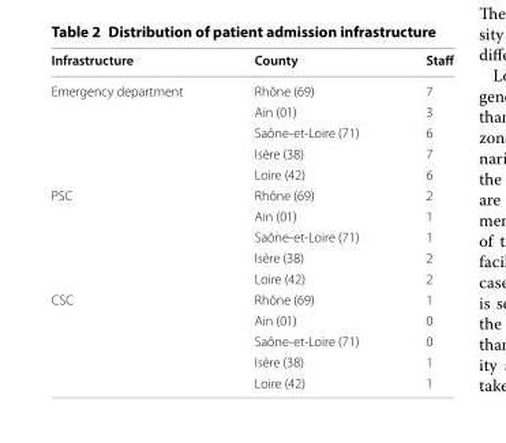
<table><thead><tr><td>Infrastructure</td><td>County</td><td>Staff</td></tr></thead><tbody><tr><td rowspan="5">Emergency department</td><td>Rhône (69)</td><td>7</td></tr><tr><td>Ain (01)</td><td>3</td></tr><tr><td>Saône-et-Loire (71)</td><td>6</td></tr><tr><td>Isère (38)</td><td>7</td></tr><tr><td>Loire (42)</td><td>6</td></tr><tr><td rowspan="5">PSC</td><td>Rhône (69)</td><td>2</td></tr><tr><td>Ain (01)</td><td>1</td></tr><tr><td>Saône-et-Loire (71)</td><td>1</td></tr><tr><td>Isère (38)</td><td>2</td></tr><tr><td>Loire (42)</td><td>2</td></tr><tr><td rowspan="5">CSC</td><td>Rhône (69)</td><td>1</td></tr><tr><td>Ain (01)</td><td>0</td></tr><tr><td>Saône-et-Loire (71)</td><td>0</td></tr><tr><td>Isère (38)</td><td>1</td></tr><tr><td>Loire (42)</td><td>1</td></tr></tbody></table>